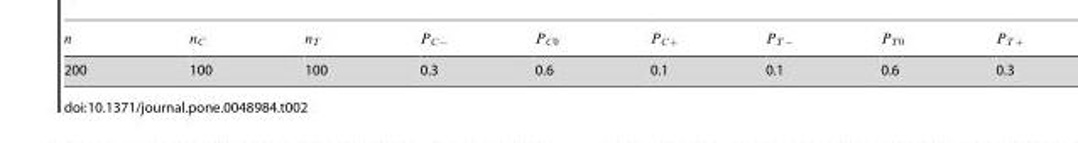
<table><tbody><tr><td>200</td><td>100</td><td>100</td><td>0.3</td><td>0.6</td><td>0.1</td><td>0.1</td><td>0.6</td><td>0.3</td></tr></tbody></table>